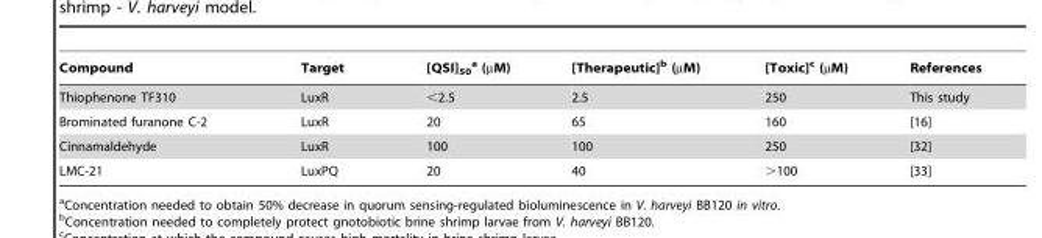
<table><thead><tr><td>Compound</td><td>Target</td><td>[QSI]<sub>50</sub> a (µM)</td><td>[Therapeutic]<sup>b</sup> (µM)</td><td>[Toxic]<sup>c</sup> (µM)</td><td>References</td></tr></thead><tbody><tr><td>Thiophenone TF310</td><td>LuxR</td><td>&lt;2.5</td><td>2.5</td><td>250</td><td>This study</td></tr><tr><td>Brominated furanone C-2</td><td>LuxR</td><td>20</td><td>65</td><td>160</td><td>[16]</td></tr><tr><td>Cinnamaldehyde</td><td>LuxR</td><td>100</td><td>100</td><td>250</td><td>[32]</td></tr><tr><td>LMC-21</td><td>LuxPQ</td><td>20</td><td>40</td><td>&gt;100</td><td>[33]</td></tr></tbody></table>